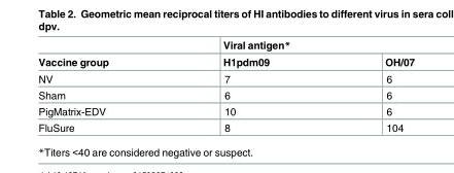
<table><thead><tr><td rowspan="2">Vaccine group</td><td colspan="2">Viral antigen*</td></tr><tr><td>H1pdm09</td><td>OH/07</td></tr></thead><tbody><tr><td>NV</td><td>7</td><td>6</td></tr><tr><td>Sham</td><td>6</td><td>6</td></tr><tr><td>PigMatrix-EDV</td><td>10</td><td>6</td></tr><tr><td>FluSure</td><td>8</td><td>104</td></tr></tbody></table>